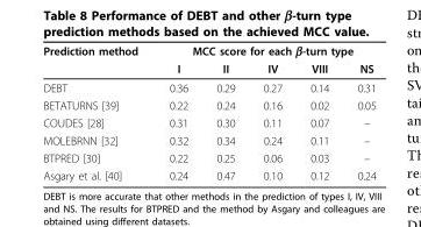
<table><thead><tr><td rowspan="2">Prediction method</td><td colspan="5">MCC score for each β-turn type</td></tr><tr><td>I</td><td>II</td><td>IV</td><td>VIII</td><td>NS</td></tr></thead><tbody><tr><td>DEBT</td><td>0.36</td><td>0.29</td><td>0.27</td><td>0.14</td><td>0.31</td></tr><tr><td>BETATURNS [39]</td><td>0.22</td><td>0.24</td><td>0.16</td><td>0.02</td><td>0.05</td></tr><tr><td>COUDES [28]</td><td>0.31</td><td>0.30</td><td>0.11</td><td>0.07</td><td>–</td></tr><tr><td>MOLEBRNN [32]</td><td>0.32</td><td>0.34</td><td>0.24</td><td>0.11</td><td>–</td></tr><tr><td>BTPRED [30]</td><td>0.22</td><td>0.25</td><td>0.06</td><td>0.03</td><td>–</td></tr><tr><td>Asgary et al. [40]</td><td>0.24</td><td>0.47</td><td>0.10</td><td>0.12</td><td>0.24</td></tr></tbody></table>